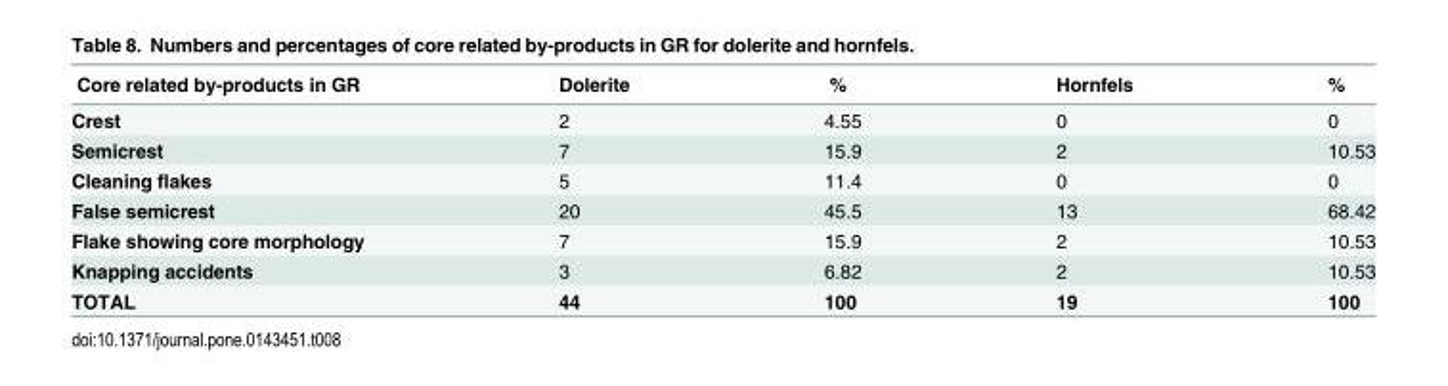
<table><thead><tr><td>Core related by-products in GR</td><td>Dolerite</td><td>%</td><td>Hornfels</td><td>%</td></tr></thead><tbody><tr><td>Crest</td><td>2</td><td>4.55</td><td>0</td><td>0</td></tr><tr><td>Semicrest</td><td>7</td><td>15.9</td><td>2</td><td>10.53</td></tr><tr><td>Cleaning flakes</td><td>5</td><td>11.4</td><td>0</td><td>0</td></tr><tr><td>False semicrest</td><td>20</td><td>45.5</td><td>13</td><td>68.42</td></tr><tr><td>Flake showing core morphology</td><td>7</td><td>15.9</td><td>2</td><td>10.53</td></tr><tr><td>Knapping accidents</td><td>3</td><td>6.82</td><td>2</td><td>10.53</td></tr><tr><td>TOTAL</td><td>44</td><td>100</td><td>19</td><td>100</td></tr></tbody></table>